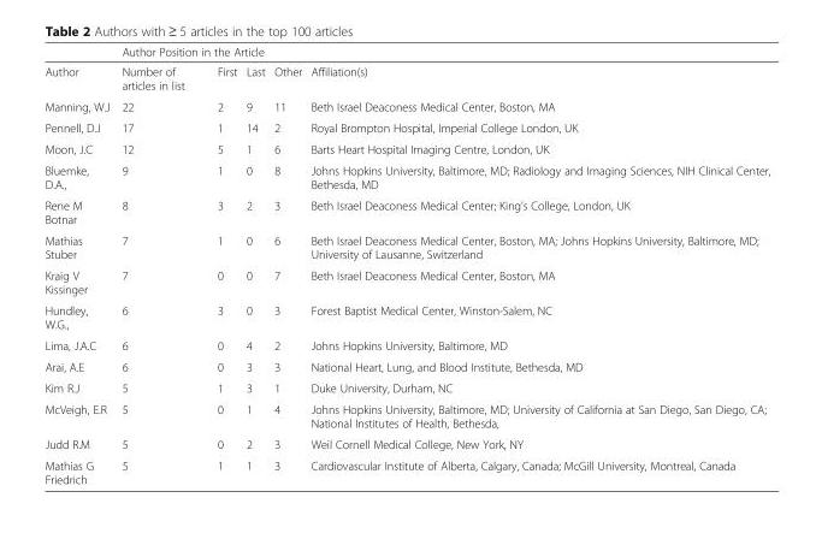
<table><thead><tr><td rowspan="2">Author</td><td colspan="4">Author Position in the Article</td><td rowspan="2">Affiliation(s)</td></tr><tr><td>Number of articles in list</td><td>First</td><td>Last</td><td>Other</td></tr></thead><tbody><tr><td>Manning, W.J</td><td>22</td><td>2</td><td>9</td><td>11</td><td>Beth Israel Deaconess Medical Center, Boston, MA</td></tr><tr><td>Pennell, D.J</td><td>17</td><td>1</td><td>14</td><td>2</td><td>Royal Brompton Hospital, Imperial College London, UK</td></tr><tr><td>Moon, J.C</td><td>12</td><td>5</td><td>1</td><td>6</td><td>Barts Heart Hospital Imaging Centre, London, UK</td></tr><tr><td>Bluemke, D.A.,</td><td>9</td><td>1</td><td>0</td><td>8</td><td>Johns Hopkins University, Baltimore, MD; Radiology and Imaging Sciences, NIH Clinical Center, Bethesda, MD</td></tr><tr><td>Rene M Botnar</td><td>8</td><td>3</td><td>2</td><td>3</td><td>Beth Israel Deaconess Medical Center; King’s College, London, UK</td></tr><tr><td>Mathias Stuber</td><td>7</td><td>1</td><td>0</td><td>6</td><td>Beth Israel Deaconess Medical Center, Boston, MA; Johns Hopkins University, Baltimore, MD; University of Lausanne, Switzerland</td></tr><tr><td>Kraig V Kissinger</td><td>7</td><td>0</td><td>0</td><td>7</td><td>Beth Israel Deaconess Medical Center, Boston, MA</td></tr><tr><td>Hundley, W.G.,</td><td>6</td><td>3</td><td>0</td><td>3</td><td>Forest Baptist Medical Center, Winston-Salem, NC</td></tr><tr><td>Lima, J.A.C</td><td>6</td><td>0</td><td>4</td><td>2</td><td>Johns Hopkins University, Baltimore, MD</td></tr><tr><td>Arai, A.E</td><td>6</td><td>0</td><td>3</td><td>3</td><td>National Heart, Lung, and Blood Institute, Bethesda, MD</td></tr><tr><td>Kim R.J</td><td>5</td><td>1</td><td>3</td><td>1</td><td>Duke University, Durham, NC</td></tr><tr><td>McVeigh, E.R</td><td>5</td><td>0</td><td>1</td><td>4</td><td>Johns Hopkins University, Baltimore, MD; University of California at San Diego, San Diego, CA; National Institutes of Health, Bethesda,</td></tr><tr><td>Judd R.M</td><td>5</td><td>0</td><td>2</td><td>3</td><td>Weil Cornell Medical College, New York, NY</td></tr><tr><td>Mathias G Friedrich</td><td>5</td><td>1</td><td>1</td><td>3</td><td>Cardiovascular Institute of Alberta, Calgary, Canada; McGill University, Montreal, Canada</td></tr></tbody></table>